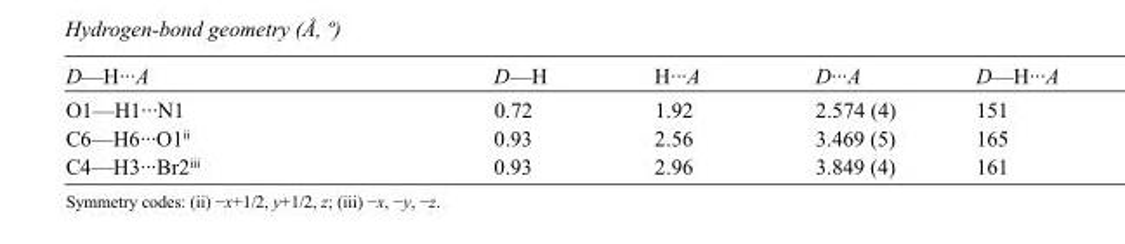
<table><tbody><tr><td>D—H···A</td><td>D—H</td><td>H···A</td><td>D···A</td><td>D—H···A</td></tr><tr><td>O1—H1···N1</td><td>0.72</td><td>1.92</td><td>2.574 (4)</td><td>151</td></tr><tr><td>C6—H6···O1<sup>ii</sup></td><td>0.93</td><td>2.56</td><td>3.469 (5)</td><td>165</td></tr><tr><td>C4—H3···Br2<sup>iii</sup></td><td>0.93</td><td>2.96</td><td>3.849 (4)</td><td>161</td></tr></tbody></table>